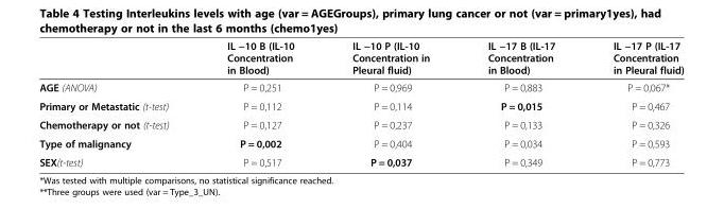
<table><thead><tr><td></td><td>IL −10 B (IL-10 Concentration in Blood)</td><td>IL −10 P (IL-10 Concentration in Pleural fluid)</td><td>IL −17 B (IL-17 Concentration in Blood)</td><td>IL −17 P (IL-17 Concentration in Pleural fluid)</td></tr></thead><tbody><tr><td>AGE (ANOVA)</td><td>P = 0,251</td><td>P = 0,969</td><td>P = 0,883</td><td>P = 0,067*</td></tr><tr><td>Primary or Metastatic (t-test)</td><td>P = 0,112</td><td>P = 0,114</td><td>P = 0,015</td><td>P = 0,467</td></tr><tr><td>Chemotherapy or not (t-test)</td><td>P = 0,127</td><td>P = 0,237</td><td>P = 0,133</td><td>P = 0,326</td></tr><tr><td>Type of malignancy</td><td>P = 0,002</td><td>P = 0,404</td><td>P = 0,034</td><td>P = 0,593</td></tr><tr><td>SEX(t-test)</td><td>P = 0,517</td><td>P = 0,037</td><td>P = 0,349</td><td>P = 0,773</td></tr></tbody></table>